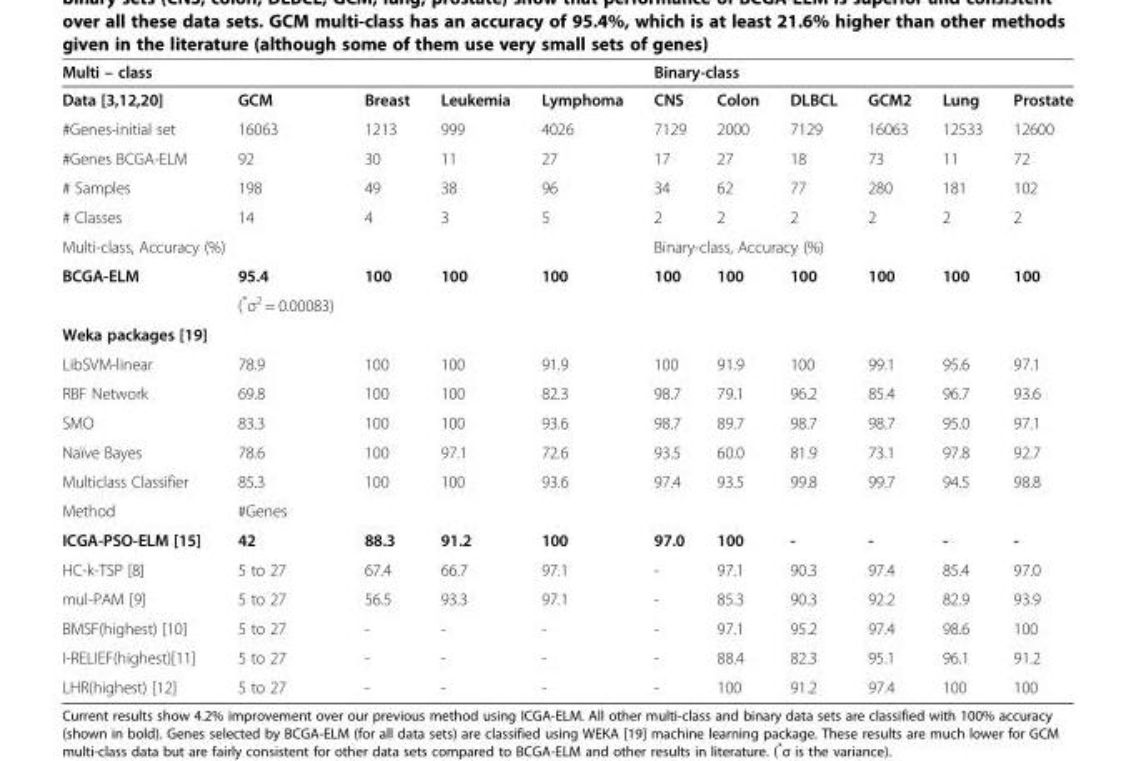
<table><thead><tr><td colspan="5">Multi – class</td><td colspan="6">Binary-class</td></tr><tr><td>Data [3,12,20]</td><td>GCM</td><td>Breast</td><td>Leukemia</td><td>Lymphoma</td><td>CNS</td><td>Colon</td><td>DLBCL</td><td>GCM2</td><td>Lung</td><td>Prostate</td></tr></thead><tbody><tr><td>#Genes-initial set</td><td>16063</td><td>1213</td><td>999</td><td>4026</td><td>7129</td><td>2000</td><td>7129</td><td>16063</td><td>12533</td><td>12600</td></tr><tr><td>#Genes BCGA-ELM</td><td>92</td><td>30</td><td>11</td><td>27</td><td>17</td><td>27</td><td>18</td><td>73</td><td>11</td><td>72</td></tr><tr><td># Samples</td><td>198</td><td>49</td><td>38</td><td>96</td><td>34</td><td>62</td><td>77</td><td>280</td><td>181</td><td>102</td></tr><tr><td># Classes</td><td>14</td><td>4</td><td>3</td><td>5</td><td>2</td><td>2</td><td>2</td><td>2</td><td>2</td><td>2</td></tr><tr><td colspan="5">Multi-class, Accuracy (%)</td><td colspan="6">Binary-class, Accuracy (%)</td></tr><tr><td rowspan="2">BCGA-ELM</td><td>95.4</td><td>100</td><td>100</td><td>100</td><td rowspan="2">100</td><td rowspan="2">100</td><td rowspan="2">100</td><td rowspan="2">100</td><td rowspan="2">100</td><td rowspan="2">100</td></tr><tr><td>(*σ<sup>2</sup> = 0.00083)</td><td></td><td></td><td></td></tr><tr><td colspan="11">Weka packages [19]</td></tr><tr><td>LibSVM-linear</td><td>78.9</td><td>100</td><td>100</td><td>91.9</td><td>100</td><td>91.9</td><td>100</td><td>99.1</td><td>95.6</td><td>97.1</td></tr><tr><td>RBF Network</td><td>69.8</td><td>100</td><td>100</td><td>82.3</td><td>98.7</td><td>79.1</td><td>96.2</td><td>85.4</td><td>96.7</td><td>93.6</td></tr><tr><td>SMO</td><td>83.3</td><td>100</td><td>100</td><td>93.6</td><td>98.7</td><td>89.7</td><td>98.7</td><td>98.7</td><td>95.0</td><td>97.1</td></tr><tr><td>Naïve Bayes</td><td>78.6</td><td>100</td><td>97.1</td><td>72.6</td><td>93.5</td><td>60.0</td><td>81.9</td><td>73.1</td><td>97.8</td><td>92.7</td></tr><tr><td>Multiclass Classifier</td><td>85.3</td><td>100</td><td>100</td><td>93.6</td><td>97.4</td><td>93.5</td><td>99.8</td><td>99.7</td><td>94.5</td><td>98.8</td></tr><tr><td>Method</td><td>#Genes</td><td colspan="9"></td></tr><tr><td>ICGA-PSO-ELM [15]</td><td>42</td><td>88.3</td><td>91.2</td><td>100</td><td>97.0</td><td>100</td><td>-</td><td>-</td><td>-</td><td>-</td></tr><tr><td>HC-k-TSP [8]</td><td>5 to 27</td><td>67.4</td><td>66.7</td><td>97.1</td><td>-</td><td>97.1</td><td>90.3</td><td>97.4</td><td>85.4</td><td>97.0</td></tr><tr><td>mul-PAM [9]</td><td>5 to 27</td><td>56.5</td><td>93.3</td><td>97.1</td><td>-</td><td>85.3</td><td>90.3</td><td>92.2</td><td>82.9</td><td>93.9</td></tr><tr><td>BMSF(highest) [10]</td><td>5 to 27</td><td>-</td><td>-</td><td>-</td><td>-</td><td>97.1</td><td>95.2</td><td>97.4</td><td>98.6</td><td>100</td></tr><tr><td>I-RELIEF(highest)[11]</td><td>5 to 27</td><td>-</td><td>-</td><td>-</td><td>-</td><td>88.4</td><td>82.3</td><td>95.1</td><td>96.1</td><td>91.2</td></tr><tr><td>LHR(highest) [12]</td><td>5 to 27</td><td>-</td><td>-</td><td>-</td><td>-</td><td>100</td><td>91.2</td><td>97.4</td><td>100</td><td>100</td></tr></tbody></table>